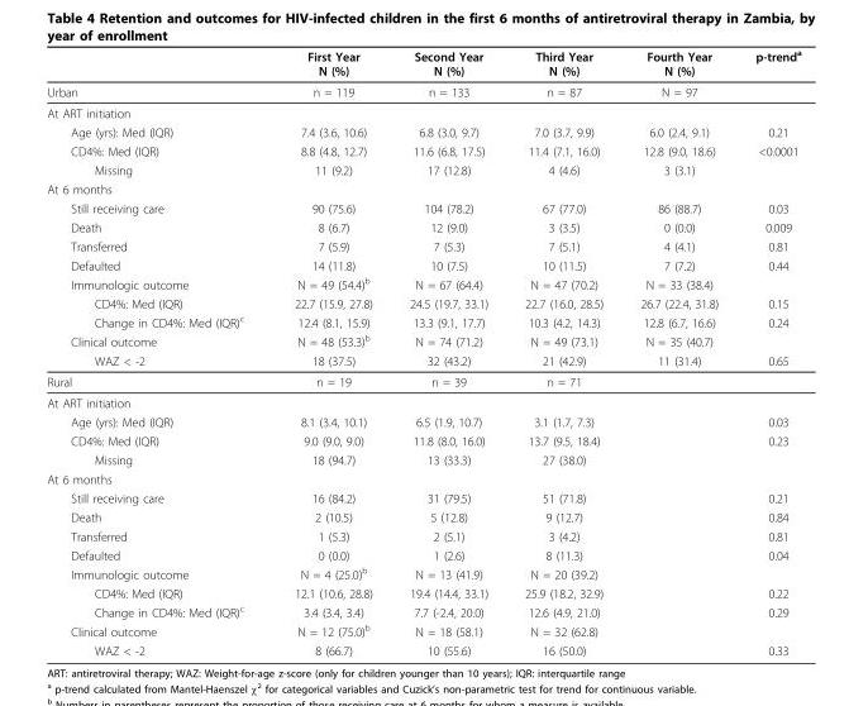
<table><thead><tr><td></td><td>First Year N (%)</td><td>Second Year N (%)</td><td>Third Year N (%)</td><td>Fourth Year N (%)</td><td>p-trend<sup>a</sup></td></tr></thead><tbody><tr><td>Urban</td><td>n = 119</td><td>n = 133</td><td>n = 87</td><td>N = 97</td><td></td></tr><tr><td colspan="6">At ART initiation</td></tr><tr><td>Age (yrs): Med (IQR)</td><td>7.4 (3.6, 10.6)</td><td>6.8 (3.0, 9.7)</td><td>7.0 (3.7, 9.9)</td><td>6.0 (2.4, 9.1)</td><td>0.21</td></tr><tr><td>CD4%: Med (IQR)</td><td>8.8 (4.8, 12.7)</td><td>11.6 (6.8, 17.5)</td><td>11.4 (7.1, 16.0)</td><td>12.8 (9.0, 18.6)</td><td>&lt;0.0001</td></tr><tr><td>Missing</td><td>11 (9.2)</td><td>17 (12.8)</td><td>4 (4.6)</td><td>3 (3.1)</td><td></td></tr><tr><td colspan="6">At 6 months</td></tr><tr><td>Still receiving care</td><td>90 (75.6)</td><td>104 (78.2)</td><td>67 (77.0)</td><td>86 (88.7)</td><td>0.03</td></tr><tr><td>Death</td><td>8 (6.7)</td><td>12 (9.0)</td><td>3 (3.5)</td><td>0 (0.0)</td><td>0.009</td></tr><tr><td>Transferred</td><td>7 (5.9)</td><td>7 (5.3)</td><td>7 (5.1)</td><td>4 (4.1)</td><td>0.81</td></tr><tr><td>Defaulted</td><td>14 (11.8)</td><td>10 (7.5)</td><td>10 (11.5)</td><td>7 (7.2)</td><td>0.44</td></tr><tr><td>Immunologic outcome</td><td>N = 49 (54.4)<sup>b</sup></td><td>N = 67 (64.4)</td><td>N = 47 (70.2)</td><td>N = 33 (38.4)</td><td></td></tr><tr><td>CD4%: Med (IQR)</td><td>22.7 (15.9, 27.8)</td><td>24.5 (19.7, 33.1)</td><td>22.7 (16.0, 28.5)</td><td>26.7 (22.4, 31.8)</td><td>0.15</td></tr><tr><td>Change in CD4%: Med (IQR)<sup>c</sup></td><td>12.4 (8.1, 15.9)</td><td>13.3 (9.1, 17.7)</td><td>10.3 (4.2, 14.3)</td><td>12.8 (6.7, 16.6)</td><td>0.24</td></tr><tr><td>Clinical outcome</td><td>N = 48 (53.3)<sup>b</sup></td><td>N = 74 (71.2)</td><td>N = 49 (73.1)</td><td>N = 35 (40.7)</td><td></td></tr><tr><td>WAZ &lt; -2</td><td>18 (37.5)</td><td>32 (43.2)</td><td>21 (42.9)</td><td>11 (31.4)</td><td>0.65</td></tr><tr><td>Rural</td><td>n = 19</td><td>n = 39</td><td>n = 71</td><td></td><td></td></tr><tr><td colspan="6">At ART initiation</td></tr><tr><td>Age (yrs): Med (IQR)</td><td>8.1 (3.4, 10.1)</td><td>6.5 (1.9, 10.7)</td><td>3.1 (1.7, 7.3)</td><td></td><td>0.03</td></tr><tr><td>CD4%: Med (IQR)</td><td>9.0 (9.0, 9.0)</td><td>11.8 (8.0, 16.0)</td><td>13.7 (9.5, 18.4)</td><td></td><td>0.23</td></tr><tr><td>Missing</td><td>18 (94.7)</td><td>13 (33.3)</td><td>27 (38.0)</td><td></td><td></td></tr><tr><td colspan="6">At 6 months</td></tr><tr><td>Still receiving care</td><td>16 (84.2)</td><td>31 (79.5)</td><td>51 (71.8)</td><td></td><td>0.21</td></tr><tr><td>Death</td><td>2 (10.5)</td><td>5 (12.8)</td><td>9 (12.7)</td><td></td><td>0.84</td></tr><tr><td>Transferred</td><td>1 (5.3)</td><td>2 (5.1)</td><td>3 (4.2)</td><td></td><td>0.81</td></tr><tr><td>Defaulted</td><td>0 (0.0)</td><td>1 (2.6)</td><td>8 (11.3)</td><td></td><td>0.04</td></tr><tr><td>Immunologic outcome</td><td>N = 4 (25.0)<sup>b</sup></td><td>N = 13 (41.9)</td><td>N = 20 (39.2)</td><td></td><td></td></tr><tr><td>CD4%: Med (IQR)</td><td>12.1 (10.6, 28.8)</td><td>19.4 (14.4, 33.1)</td><td>25.9 (18.2, 32.9)</td><td></td><td>0.22</td></tr><tr><td>Change in CD4%: Med (IQR)<sup>c</sup></td><td>3.4 (3.4, 3.4)</td><td>7.7 (-2.4, 20.0)</td><td>12.6 (4.9, 21.0)</td><td></td><td>0.29</td></tr><tr><td>Clinical outcome</td><td>N = 12 (75.0)<sup>b</sup></td><td>N = 18 (58.1)</td><td>N = 32 (62.8)</td><td></td><td></td></tr><tr><td>WAZ &lt; -2</td><td>8 (66.7)</td><td>10 (55.6)</td><td>16 (50.0)</td><td></td><td>0.33</td></tr></tbody></table>